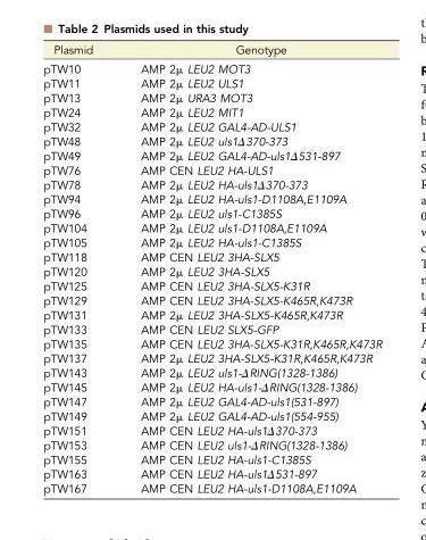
<table><thead><tr><td>Plasmid</td><td>Genotype</td></tr></thead><tbody><tr><td>pTW10</td><td>AMP 2μ LEU2 MOT3</td></tr><tr><td>pTW11</td><td>AMP 2μ LEU2 ULS1</td></tr><tr><td>pTW13</td><td>AMP 2μ URA3 MOT3</td></tr><tr><td>pTW24</td><td>AMP 2μ LEU2 MIT1</td></tr><tr><td>pTW32</td><td>AMP 2μ LEU2 GAL4-AD-ULS1</td></tr><tr><td>pTW48</td><td>AMP 2μ LEU2 uls1Δ370-373</td></tr><tr><td>pTW49</td><td>AMP 2μ LEU2 GAL4-AD-uls1Δ531-897</td></tr><tr><td>pTW76</td><td>AMP CEN LEU2 HA-ULS1</td></tr><tr><td>pTW78</td><td>AMP 2μ LEU2 HA-uls1Δ370-373</td></tr><tr><td>pTW94</td><td>AMP 2μ LEU2 HA-uls1-D1108A,E1109A</td></tr><tr><td>pTW96</td><td>AMP 2μ LEU2 uls1-C1385S</td></tr><tr><td>pTW104</td><td>AMP 2μ LEU2 uls1-D1108A,E1109A</td></tr><tr><td>pTW105</td><td>AMP 2μ LEU2 HA-uls1-C1385S</td></tr><tr><td>pTW118</td><td>AMP CEN LEU2 3HA-SLX5</td></tr><tr><td>pTW120</td><td>AMP 2μ LEU2 3HA-SLX5</td></tr><tr><td>pTW125</td><td>AMP CEN LEU2 3HA-SLX5-K31R</td></tr><tr><td>pTW129</td><td>AMP CEN LEU2 3HA-SLX5-K465R,K473R</td></tr><tr><td>pTW131</td><td>AMP 2μ LEU2 3HA-SLX5-K465R,K473R</td></tr><tr><td>pTW133</td><td>AMP CEN LEU2 SLX5-GFP</td></tr><tr><td>pTW135</td><td>AMP CEN LEU2 3HA-SLX5-K31R,K465R,K473R</td></tr><tr><td>pTW137</td><td>AMP 2μ LEU2 3HA-SLX5-K31R,K465R,K473R</td></tr><tr><td>pTW143</td><td>AMP 2μ LEU2 uls1-ΔRING(1328-1386)</td></tr><tr><td>pTW145</td><td>AMP 2μ LEU2 HA-uls1-ΔRING(1328-1386)</td></tr><tr><td>pTW147</td><td>AMP 2μ LEU2 GAL4-AD-uls1(531-897)</td></tr><tr><td>pTW149</td><td>AMP 2μ LEU2 GAL4-AD-uls1(554-955)</td></tr><tr><td>pTW151</td><td>AMP CEN LEU2 HA-uls1Δ370-373</td></tr><tr><td>pTW153</td><td>AMP CEN LEU2 uls1-ΔRING(1328-1386)</td></tr><tr><td>pTW155</td><td>AMP CEN LEU2 HA-uls1-C1385S</td></tr><tr><td>pTW163</td><td>AMP CEN LEU2 HA-uls1Δ531-897</td></tr><tr><td>pTW167</td><td>AMP CEN LEU2 HA-uls1-D1108A,E1109A</td></tr></tbody></table>